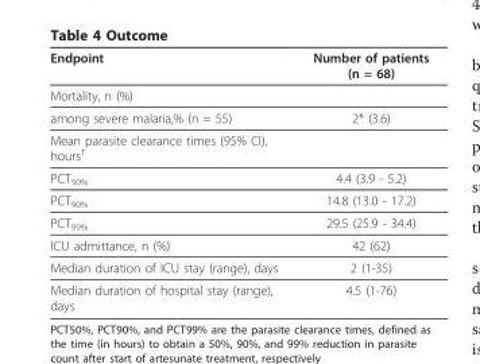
<table><thead><tr><td>Endpoint</td><td>Number of patients (n = 68)</td></tr></thead><tbody><tr><td colspan="2">Mortality, n (%)</td></tr><tr><td>among severe malaria,% (n = 55)</td><td>2* (3.6)</td></tr><tr><td colspan="2">Mean parasite clearance times (95% CI), hours<sup>†</sup></td></tr><tr><td>PCT<sub>50%</sub></td><td>4.4 (3.9 - 5.2)</td></tr><tr><td>PCT<sub>90%</sub></td><td>14.8 (13.0 - 17.2)</td></tr><tr><td>PCT<sub>99%</sub></td><td>29.5 (25.9 - 34.4)</td></tr><tr><td>ICU admittance, n (%)</td><td>42 (62)</td></tr><tr><td>Median duration of ICU stay (range), days</td><td>2 (1-35)</td></tr><tr><td>Median duration of hospital stay (range), days</td><td>4.5 (1-76)</td></tr></tbody></table>